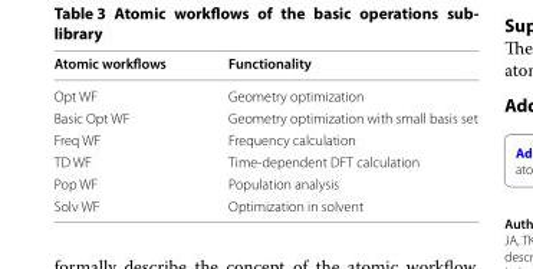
<table><thead><tr><td>Atomic workflows</td><td>Functionality</td></tr></thead><tbody><tr><td>Opt WF</td><td>Geometry optimization</td></tr><tr><td>Basic Opt WF</td><td>Geometry optimization with small basis set</td></tr><tr><td>Freq WF</td><td>Frequency calculation</td></tr><tr><td>TD WF</td><td>Time‑dependent DFT calculation</td></tr><tr><td>Pop WF</td><td>Population analysis</td></tr><tr><td>Solv WF</td><td>Optimization in solvent</td></tr></tbody></table>